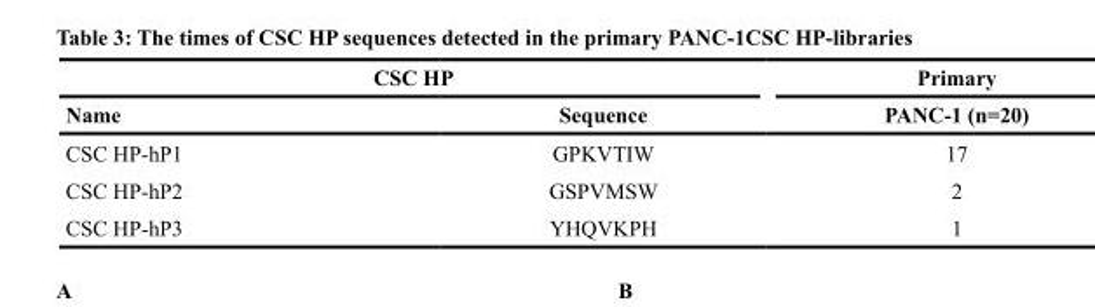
<table><thead><tr><td colspan="2">CSC HP</td><td rowspan="2">Primary PANC-1 (n=20)</td></tr><tr><td>Name</td><td>Sequence</td></tr></thead><tbody><tr><td>CSC HP-hP1</td><td>GPKVTIW</td><td>17</td></tr><tr><td>CSC HP-hP2</td><td>GSPVMSW</td><td>2</td></tr><tr><td>CSC HP-hP3</td><td>YHQVKPH</td><td>1</td></tr></tbody></table>